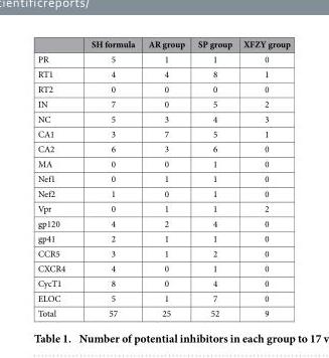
<table><thead><tr><td></td><td>SH formula</td><td>AR group</td><td>SP group</td><td>XFZY group</td></tr></thead><tbody><tr><td>PR</td><td>5</td><td>1</td><td>1</td><td>0</td></tr><tr><td>RT1</td><td>4</td><td>4</td><td>8</td><td>1</td></tr><tr><td>RT2</td><td>0</td><td>0</td><td>0</td><td>0</td></tr><tr><td>IN</td><td>7</td><td>0</td><td>5</td><td>2</td></tr><tr><td>NC</td><td>5</td><td>3</td><td>4</td><td>3</td></tr><tr><td>CA1</td><td>3</td><td>7</td><td>5</td><td>1</td></tr><tr><td>CA2</td><td>6</td><td>3</td><td>6</td><td>0</td></tr><tr><td>MA</td><td>0</td><td>0</td><td>1</td><td>0</td></tr><tr><td>Nef1</td><td>0</td><td>1</td><td>1</td><td>0</td></tr><tr><td>Nef2</td><td>1</td><td>0</td><td>1</td><td>0</td></tr><tr><td>Vpr</td><td>0</td><td>1</td><td>1</td><td>2</td></tr><tr><td>gp120</td><td>4</td><td>2</td><td>4</td><td>0</td></tr><tr><td>gp41</td><td>2</td><td>1</td><td>1</td><td>0</td></tr><tr><td>CCR5</td><td>3</td><td>1</td><td>2</td><td>0</td></tr><tr><td>CXCR4</td><td>4</td><td>0</td><td>1</td><td>0</td></tr><tr><td>CycT1</td><td>8</td><td>0</td><td>4</td><td>0</td></tr><tr><td>ELOC</td><td>5</td><td>1</td><td>7</td><td>0</td></tr><tr><td>Total</td><td>57</td><td>25</td><td>52</td><td>9</td></tr></tbody></table>